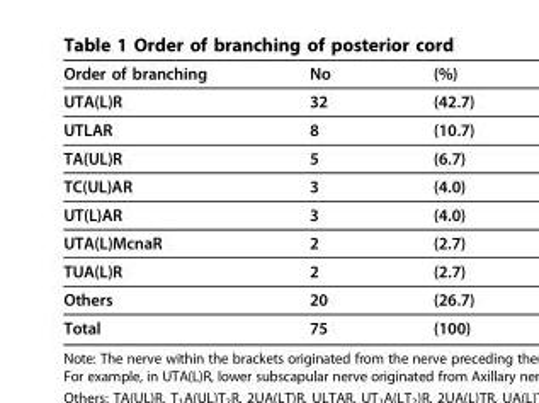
<table><thead><tr><td>Order of branching</td><td>No</td><td>(%)</td></tr></thead><tbody><tr><td>UTA(L)R</td><td>32</td><td>(42.7)</td></tr><tr><td>UTLAR</td><td>8</td><td>(10.7)</td></tr><tr><td>TA(UL)R</td><td>5</td><td>(6.7)</td></tr><tr><td>TC(UL)AR</td><td>3</td><td>(4.0)</td></tr><tr><td>UT(L)AR</td><td>3</td><td>(4.0)</td></tr><tr><td>UTA(L)McnaR</td><td>2</td><td>(2.7)</td></tr><tr><td>TUA(L)R</td><td>2</td><td>(2.7)</td></tr><tr><td>Others</td><td>20</td><td>(26.7)</td></tr><tr><td>Total</td><td>75</td><td>(100)</td></tr></tbody></table>